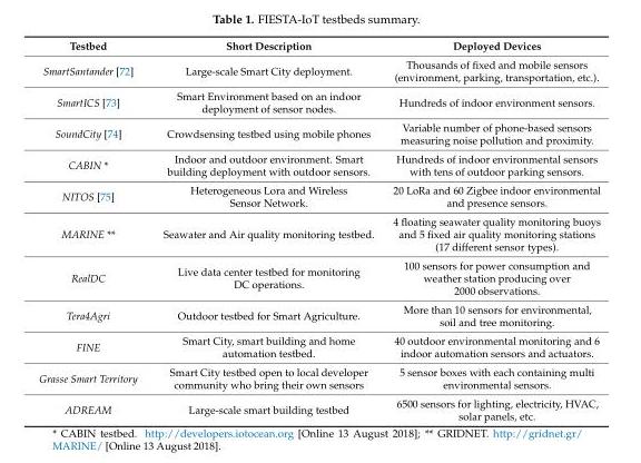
<table><thead><tr><td>Testbed</td><td>Short Description</td><td>Deployed Devices</td></tr></thead><tbody><tr><td>SmartSantander [72]</td><td>Large-scale Smart City deployment.</td><td>Thousands of fixed and mobile sensors (environment, parking, transportation, etc.).</td></tr><tr><td>SmartICS [73]</td><td>Smart Environment based on an indoor deployment of sensor nodes.</td><td>Hundreds of indoor environment sensors.</td></tr><tr><td>SoundCity [74]</td><td>Crowdsensing testbed using mobile phones</td><td>Variable number of phone-based sensors measuring noise pollution and proximity.</td></tr><tr><td>CABIN *</td><td>Indoor and outdoor environment. Smart building deployment with outdoor sensors.</td><td>Hundreds of indoor environmental sensors with tens of outdoor parking sensors.</td></tr><tr><td>NITOS [75]</td><td>Heterogeneous Lora and Wireless Sensor Network.</td><td>20 LoRa and 60 Zigbee indoor environmental and presence sensors.</td></tr><tr><td>MARINE **</td><td>Seawater and Air quality monitoring testbed.</td><td>4 floating seawater quality monitoring buoys and 5 fixed air quality monitoring stations (17 different sensor types).</td></tr><tr><td>RealDC</td><td>Live data center testbed for monitoring DC operations.</td><td>100 sensors for power consumption and weather station producing over 2000 observations.</td></tr><tr><td>Tera4Agri</td><td>Outdoor testbed for Smart Agriculture.</td><td>More than 10 sensors for environmental, soil and tree monitoring.</td></tr><tr><td>FINE</td><td>Smart City, smart building and home automation testbed.</td><td>40 outdoor environmental monitoring and 6 indoor automation sensors and actuators.</td></tr><tr><td>Grasse Smart Territory</td><td>Smart City testbed open to local developer community who bring their own sensors</td><td>5 sensor boxes with each containing multi environmental sensors.</td></tr><tr><td>ADREAM</td><td>Large-scale smart building testbed</td><td>6500 sensors for lighting, electricity, HVAC, solar panels, etc.</td></tr></tbody></table>